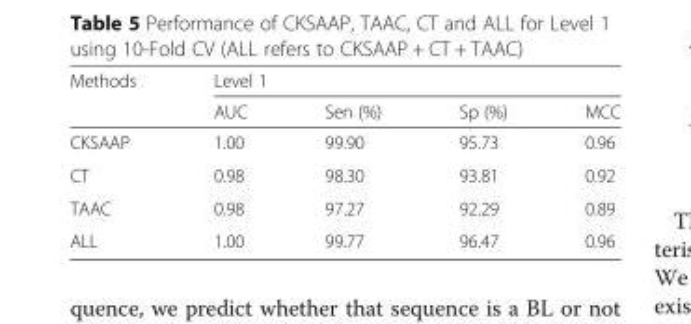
<table><thead><tr><td rowspan="2">Methods</td><td colspan="4">Level 1</td></tr><tr><td>AUC</td><td>Sen (%)</td><td>Sp (%)</td><td>MCC</td></tr></thead><tbody><tr><td>CKSAAP</td><td>1.00</td><td>99.90</td><td>95.73</td><td>0.96</td></tr><tr><td>CT</td><td>0.98</td><td>98.30</td><td>93.81</td><td>0.92</td></tr><tr><td>TAAC</td><td>0.98</td><td>97.27</td><td>92.29</td><td>0.89</td></tr><tr><td>ALL</td><td>1.00</td><td>99.77</td><td>96.47</td><td>0.96</td></tr></tbody></table>